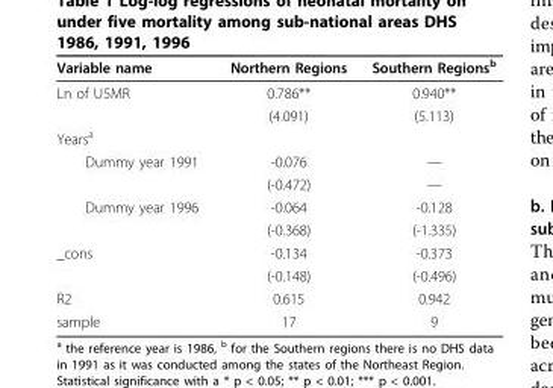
<table><thead><tr><td>Variable name</td><td>Northern Regions</td><td>Southern Regions<sup>b</sup></td></tr></thead><tbody><tr><td rowspan="2">Ln of U5MR</td><td>0.786**</td><td>0.940**</td></tr><tr><td>(4.091)</td><td>(5.113)</td></tr><tr><td colspan="3">Years<sup>a</sup></td></tr><tr><td rowspan="2">Dummy year 1991</td><td>-0.076</td><td>—</td></tr><tr><td>(-0.472)</td><td>—</td></tr><tr><td rowspan="2">Dummy year 1996</td><td>-0.064</td><td>-0.128</td></tr><tr><td>(-0.368)</td><td>(-1.335)</td></tr><tr><td rowspan="2">_cons</td><td>-0.134</td><td>-0.373</td></tr><tr><td>(-0.148)</td><td>(-0.496)</td></tr><tr><td>R2</td><td>0.615</td><td>0.942</td></tr><tr><td>sample</td><td>17</td><td>9</td></tr></tbody></table>